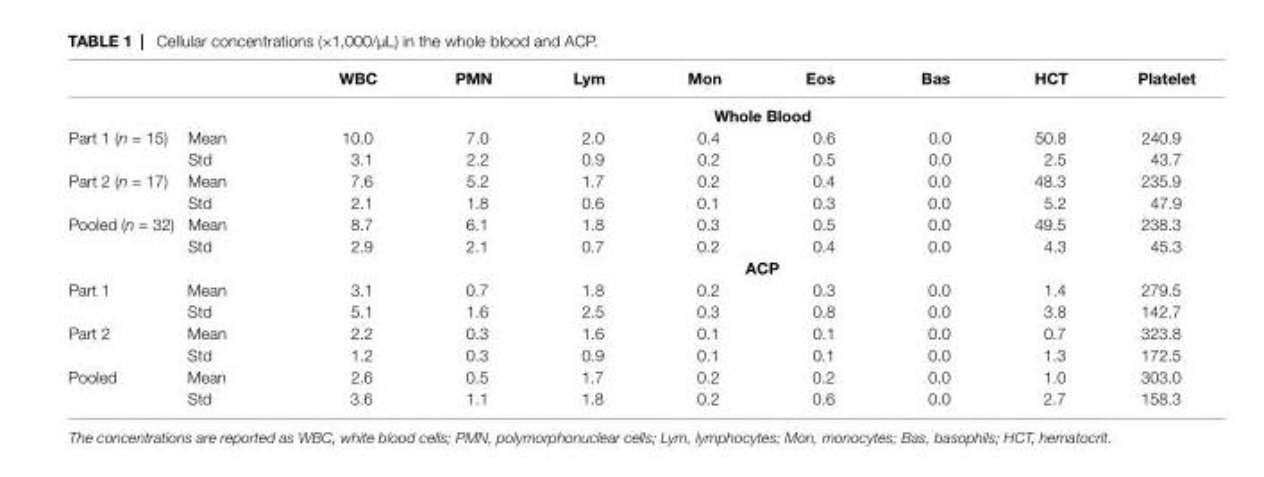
<table><thead><tr><td></td><td></td><td>WBc</td><td>PMn</td><td>lym</td><td>Mon</td><td>eos</td><td>Bas</td><td>hcT</td><td>Platelet</td></tr></thead><tbody><tr><td></td><td></td><td colspan="8">Whole Blood</td></tr><tr><td rowspan="2">Part 1 (n = 15)</td><td>Mean</td><td>10.0</td><td>7.0</td><td>2.0</td><td>0.4</td><td>0.6</td><td>0.0</td><td>50.8</td><td>240.9</td></tr><tr><td>Std</td><td>3.1</td><td>2.2</td><td>0.9</td><td>0.2</td><td>0.5</td><td>0.0</td><td>2.5</td><td>43.7</td></tr><tr><td rowspan="2">Part 2 (n = 17)</td><td>Mean</td><td>7.6</td><td>5.2</td><td>1.7</td><td>0.2</td><td>0.4</td><td>0.0</td><td>48.3</td><td>235.9</td></tr><tr><td>Std</td><td>2.1</td><td>1.8</td><td>0.6</td><td>0.1</td><td>0.3</td><td>0.0</td><td>5.2</td><td>47.9</td></tr><tr><td rowspan="3">Pooled (n = 32)</td><td>Mean</td><td>8.7</td><td>6.1</td><td>1.8</td><td>0.3</td><td>0.5</td><td>0.0</td><td>49.5</td><td>238.3</td></tr><tr><td>Std</td><td>2.9</td><td>2.1</td><td>0.7</td><td>0.2</td><td>0.4</td><td>0.0</td><td>4.3</td><td>45.3</td></tr><tr><td></td><td colspan="8">acP</td></tr><tr><td rowspan="2">Part 1</td><td>Mean</td><td>3.1</td><td>0.7</td><td>1.8</td><td>0.2</td><td>0.3</td><td>0.0</td><td>1.4</td><td>279.5</td></tr><tr><td>Std</td><td>5.1</td><td>1.6</td><td>2.5</td><td>0.3</td><td>0.8</td><td>0.0</td><td>3.8</td><td>142.7</td></tr><tr><td rowspan="2">Part 2</td><td>Mean</td><td>2.2</td><td>0.3</td><td>1.6</td><td>0.1</td><td>0.1</td><td>0.0</td><td>0.7</td><td>323.8</td></tr><tr><td>Std</td><td>1.2</td><td>0.3</td><td>0.9</td><td>0.1</td><td>0.1</td><td>0.0</td><td>1.3</td><td>172.5</td></tr><tr><td rowspan="2">Pooled</td><td>Mean</td><td>2.6</td><td>0.5</td><td>1.7</td><td>0.2</td><td>0.2</td><td>0.0</td><td>1.0</td><td>303.0</td></tr><tr><td>Std</td><td>3.6</td><td>1.1</td><td>1.8</td><td>0.2</td><td>0.6</td><td>0.0</td><td>2.7</td><td>158.3</td></tr></tbody></table>